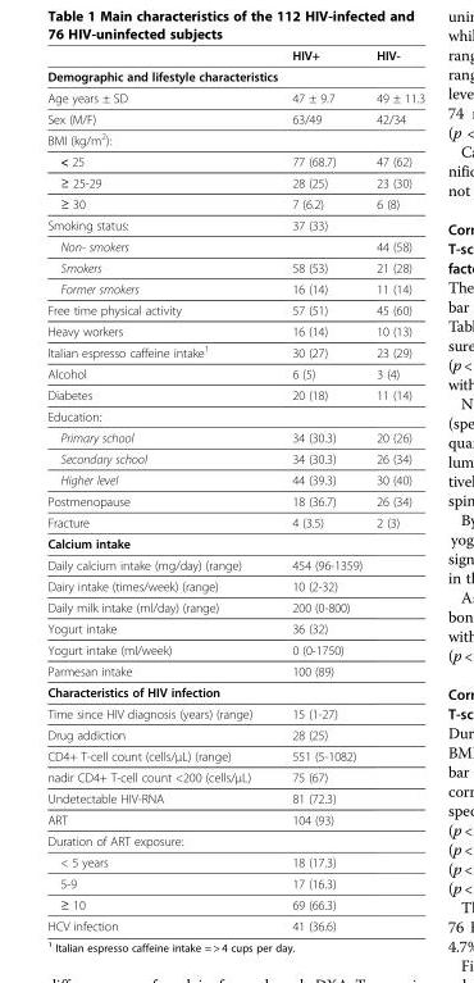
<table><thead><tr><td></td><td>HIV+</td><td>HIV-</td></tr></thead><tbody><tr><td colspan="3">Demographic and lifestyle characteristics</td></tr><tr><td>Age years ± SD</td><td>47 ± 9.7</td><td>49 ± 11.3</td></tr><tr><td>Sex (M/F)</td><td>63/49</td><td>42/34</td></tr><tr><td colspan="3">BMI (kg/m<sup>2</sup>):</td></tr><tr><td>&lt; 25</td><td>77 (68.7)</td><td>47 (62)</td></tr><tr><td>≥ 25-29</td><td>28 (25)</td><td>23 (30)</td></tr><tr><td>≥ 30</td><td>7 (6.2)</td><td>6 (8)</td></tr><tr><td>Smoking status:</td><td>37 (33)</td><td></td></tr><tr><td>Non- smokers</td><td></td><td>44 (58)</td></tr><tr><td>Smokers</td><td>58 (53)</td><td>21 (28)</td></tr><tr><td>Former smokers</td><td>16 (14)</td><td>11 (14)</td></tr><tr><td>Free time physical activity</td><td>57 (51)</td><td>45 (60)</td></tr><tr><td>Heavy workers</td><td>16 (14)</td><td>10 (13)</td></tr><tr><td>Italian espresso caffeine intake<sup>1</sup></td><td>30 (27)</td><td>23 (29)</td></tr><tr><td>Alcohol</td><td>6 (5)</td><td>3 (4)</td></tr><tr><td>Diabetes</td><td>20 (18)</td><td>11 (14)</td></tr><tr><td colspan="3">Education:</td></tr><tr><td>Primary school</td><td>34 (30.3)</td><td>20 (26)</td></tr><tr><td>Secondary school</td><td>34 (30.3)</td><td>26 (34)</td></tr><tr><td>Higher level</td><td>44 (39.3)</td><td>30 (40)</td></tr><tr><td>Postmenopause</td><td>18 (36.7)</td><td>26 (34)</td></tr><tr><td>Fracture</td><td>4 (3.5)</td><td>2 (3)</td></tr><tr><td colspan="3">Calcium intake</td></tr><tr><td>Daily calcium intake (mg/day) (range)</td><td>454 (96-1359)</td><td></td></tr><tr><td>Dairy intake (times/week) (range)</td><td>10 (2-32)</td><td></td></tr><tr><td>Daily milk intake (ml/day) (range)</td><td>200 (0-800)</td><td></td></tr><tr><td>Yogurt intake</td><td>36 (32)</td><td></td></tr><tr><td>Yogurt intake (ml/week)</td><td>0 (0-1750)</td><td></td></tr><tr><td>Parmesan intake</td><td>100 (89)</td><td></td></tr><tr><td colspan="3">Characteristics of HIV infection</td></tr><tr><td>Time since HIV diagnosis (years) (range)</td><td>15 (1-27)</td><td></td></tr><tr><td>Drug addiction</td><td>28 (25)</td><td></td></tr><tr><td>CD4+ T-cell count (cells/μL) (range)</td><td>551 (5-1082)</td><td></td></tr><tr><td>nadir CD4+ T-cell count &lt;200 (cells/μL)</td><td>75 (67)</td><td></td></tr><tr><td>Undetectable HIV-RNA</td><td>81 (72.3)</td><td></td></tr><tr><td>ART</td><td>104 (93)</td><td></td></tr><tr><td colspan="3">Duration of ART exposure:</td></tr><tr><td>&lt; 5 years</td><td>18 (17.3)</td><td></td></tr><tr><td>5-9</td><td>17 (16.3)</td><td></td></tr><tr><td>≥ 10</td><td>69 (66.3)</td><td></td></tr><tr><td>HCV infection</td><td>41 (36.6)</td><td></td></tr></tbody></table>